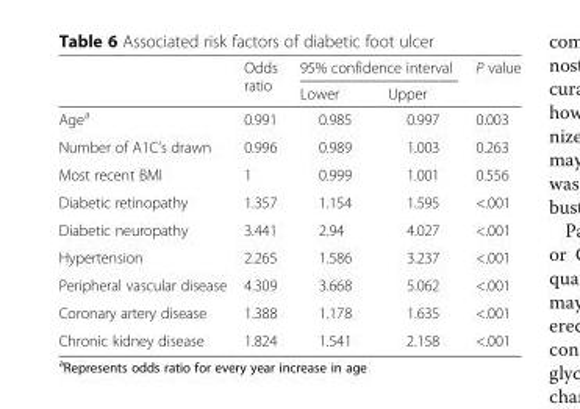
<table><thead><tr><td rowspan="2"></td><td rowspan="2">Odds ratio</td><td colspan="2">95% confidence interval</td><td rowspan="2">P value</td></tr><tr><td>Lower</td><td>Upper</td></tr></thead><tbody><tr><td>Age<sup>a</sup></td><td>0.991</td><td>0.985</td><td>0.997</td><td>0.003</td></tr><tr><td>Number of A1C’s drawn</td><td>0.996</td><td>0.989</td><td>1.003</td><td>0.263</td></tr><tr><td>Most recent BMI</td><td>1</td><td>0.999</td><td>1.001</td><td>0.556</td></tr><tr><td>Diabetic retinopathy</td><td>1.357</td><td>1.154</td><td>1.595</td><td>&lt;.001</td></tr><tr><td>Diabetic neuropathy</td><td>3.441</td><td>2.94</td><td>4.027</td><td>&lt;.001</td></tr><tr><td>Hypertension</td><td>2.265</td><td>1.586</td><td>3.237</td><td>&lt;.001</td></tr><tr><td>Peripheral vascular disease</td><td>4.309</td><td>3.668</td><td>5.062</td><td>&lt;.001</td></tr><tr><td>Coronary artery disease</td><td>1.388</td><td>1.178</td><td>1.635</td><td>&lt;.001</td></tr><tr><td>Chronic kidney disease</td><td>1.824</td><td>1.541</td><td>2.158</td><td>&lt;.001</td></tr></tbody></table>